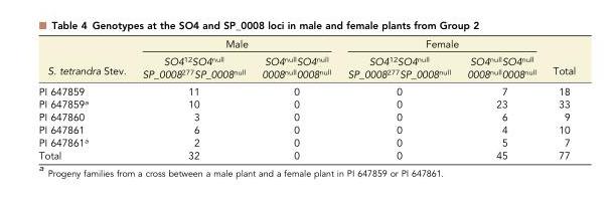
<table><thead><tr><td rowspan="2">S. tetrandra Stev.</td><td colspan="2">Male</td><td colspan="2">Female</td><td rowspan="2">Total</td></tr><tr><td>SO4<sup>12</sup>SO4<sup>null</sup> SP_0008<sup>277</sup>SP_0008<sup>null</sup></td><td>SO4<sup>null</sup>SO4<sup>null</sup> 0008<sup>null</sup>0008<sup>null</sup></td><td>SO4<sup>12</sup>SO4<sup>null</sup> SP_0008<sup>277</sup>SP_0008<sup>null</sup></td><td>SO4<sup>null</sup>SO4<sup>null</sup> 0008<sup>null</sup>0008<sup>null</sup></td></tr></thead><tbody><tr><td>PI 647859</td><td>11</td><td>0</td><td>0</td><td>7</td><td>18</td></tr><tr><td>PI 647859<sup>a</sup></td><td>10</td><td>0</td><td>0</td><td>23</td><td>33</td></tr><tr><td>PI 647860</td><td>3</td><td>0</td><td>0</td><td>6</td><td>9</td></tr><tr><td>PI 647861</td><td>6</td><td>0</td><td>0</td><td>4</td><td>10</td></tr><tr><td>PI 647861<sup>a</sup></td><td>2</td><td>0</td><td>0</td><td>5</td><td>7</td></tr><tr><td>Total</td><td>32</td><td>0</td><td>0</td><td>45</td><td>77</td></tr></tbody></table>